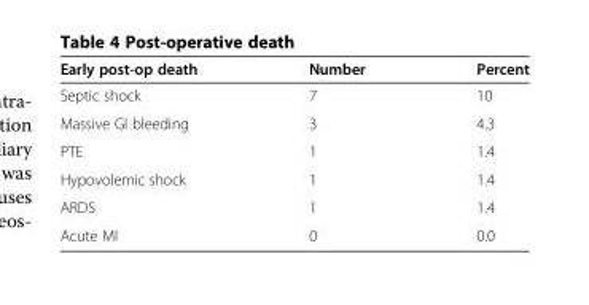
<table><thead><tr><td>Early post-op death</td><td>Number</td><td>Percent</td></tr></thead><tbody><tr><td>Septic shock</td><td>7</td><td>10</td></tr><tr><td>Massive GI bleeding</td><td>3</td><td>4.3</td></tr><tr><td>PTE</td><td>1</td><td>1.4</td></tr><tr><td>Hypovolemic shock</td><td>1</td><td>1.4</td></tr><tr><td>ARDS</td><td>1</td><td>1.4</td></tr><tr><td>Acute MI</td><td>0</td><td>0.0</td></tr></tbody></table>